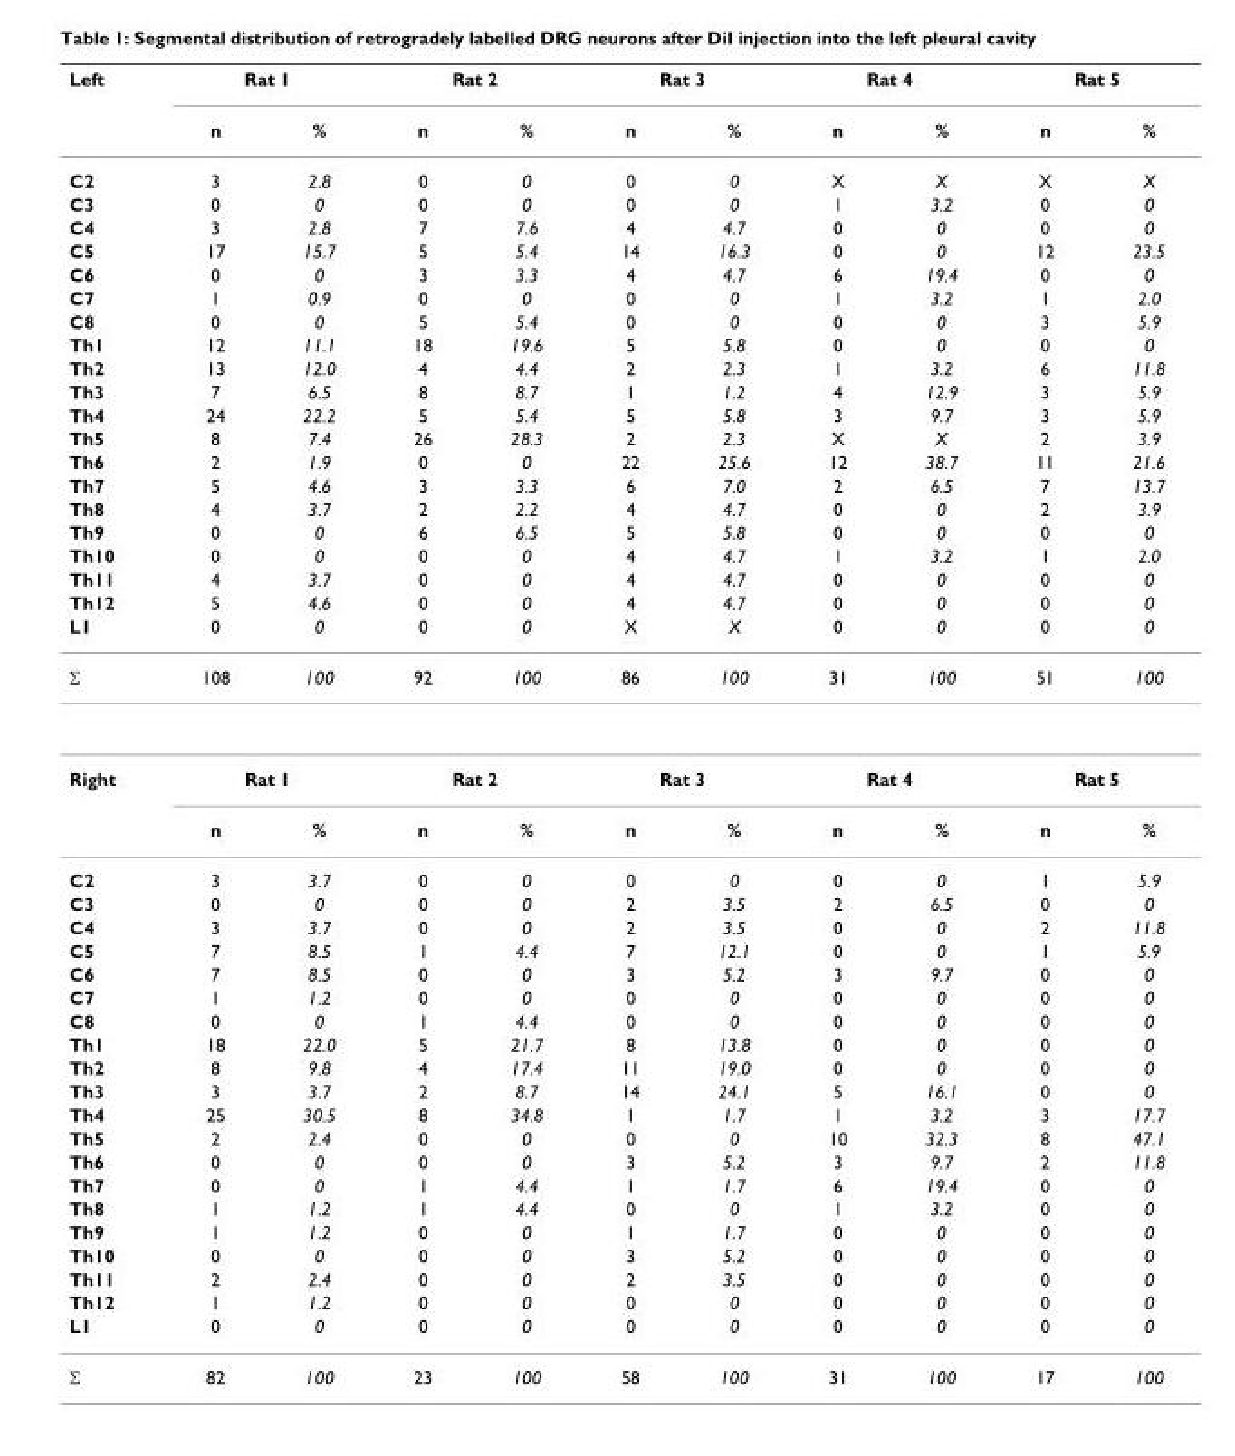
<table><thead><tr><td rowspan="2">Left</td><td colspan="2">Rat 1</td><td colspan="2">Rat 2</td><td colspan="2">Rat 3</td><td colspan="2">Rat 4</td><td colspan="2">Rat 5</td></tr><tr><td>n</td><td>%</td><td>n</td><td>%</td><td>n</td><td>%</td><td>n</td><td>%</td><td>n</td><td>%</td></tr></thead><tbody><tr><td>C2</td><td>3</td><td>2.8</td><td>0</td><td>0</td><td>0</td><td>0</td><td>X</td><td>X</td><td>X</td><td>X</td></tr><tr><td>C3</td><td>0</td><td>0</td><td>0</td><td>0</td><td>0</td><td>0</td><td>1</td><td>3.2</td><td>0</td><td>0</td></tr><tr><td>C4</td><td>3</td><td>2.8</td><td>7</td><td>7.6</td><td>4</td><td>4.7</td><td>0</td><td>0</td><td>0</td><td>0</td></tr><tr><td>C5</td><td>17</td><td>15.7</td><td>5</td><td>5.4</td><td>14</td><td>16.3</td><td>0</td><td>0</td><td>12</td><td>23.5</td></tr><tr><td>C6</td><td>0</td><td>0</td><td>3</td><td>3.3</td><td>4</td><td>4.7</td><td>6</td><td>19.4</td><td>0</td><td>0</td></tr><tr><td>C7</td><td>1</td><td>0.9</td><td>0</td><td>0</td><td>0</td><td>0</td><td>1</td><td>3.2</td><td>1</td><td>2.0</td></tr><tr><td>C8</td><td>0</td><td>0</td><td>5</td><td>5.4</td><td>0</td><td>0</td><td>0</td><td>0</td><td>3</td><td>5.9</td></tr><tr><td>Th1</td><td>12</td><td>11.1</td><td>18</td><td>19.6</td><td>5</td><td>5.8</td><td>0</td><td>0</td><td>0</td><td>0</td></tr><tr><td>Th2</td><td>13</td><td>12.0</td><td>4</td><td>4.4</td><td>2</td><td>2.3</td><td>1</td><td>3.2</td><td>6</td><td>11.8</td></tr><tr><td>Th3</td><td>7</td><td>6.5</td><td>8</td><td>8.7</td><td>1</td><td>1.2</td><td>4</td><td>12.9</td><td>3</td><td>5.9</td></tr><tr><td>Th4</td><td>24</td><td>22.2</td><td>5</td><td>5.4</td><td>5</td><td>5.8</td><td>3</td><td>9.7</td><td>3</td><td>5.9</td></tr><tr><td>Th5</td><td>8</td><td>7.4</td><td>26</td><td>28.3</td><td>2</td><td>2.3</td><td>X</td><td>X</td><td>2</td><td>3.9</td></tr><tr><td>Th6</td><td>2</td><td>1.9</td><td>0</td><td>0</td><td>22</td><td>25.6</td><td>12</td><td>38.7</td><td>11</td><td>21.6</td></tr><tr><td>Th7</td><td>5</td><td>4.6</td><td>3</td><td>3.3</td><td>6</td><td>7.0</td><td>2</td><td>6.5</td><td>7</td><td>13.7</td></tr><tr><td>Th8</td><td>4</td><td>3.7</td><td>2</td><td>2.2</td><td>4</td><td>4.7</td><td>0</td><td>0</td><td>2</td><td>3.9</td></tr><tr><td>Th9</td><td>0</td><td>0</td><td>6</td><td>6.5</td><td>5</td><td>5.8</td><td>0</td><td>0</td><td>0</td><td>0</td></tr><tr><td>Th10</td><td>0</td><td>0</td><td>0</td><td>0</td><td>4</td><td>4.7</td><td>1</td><td>3.2</td><td>1</td><td>2.0</td></tr><tr><td>Th11</td><td>4</td><td>3.7</td><td>0</td><td>0</td><td>4</td><td>4.7</td><td>0</td><td>0</td><td>0</td><td>0</td></tr><tr><td>Th12</td><td>5</td><td>4.6</td><td>0</td><td>0</td><td>4</td><td>4.7</td><td>0</td><td>0</td><td>0</td><td>0</td></tr><tr><td>L1</td><td>0</td><td>0</td><td>0</td><td>0</td><td>X</td><td>X</td><td>0</td><td>0</td><td>0</td><td>0</td></tr><tr><td>Σ</td><td>108</td><td>100</td><td>92</td><td>100</td><td>86</td><td>100</td><td>31</td><td>100</td><td>51</td><td>100</td></tr><tr><td rowspan="2">Right</td><td colspan="2">Rat 1</td><td colspan="2">Rat 2</td><td colspan="2">Rat 3</td><td colspan="2">Rat 4</td><td colspan="2">Rat 5</td></tr><tr><td>n</td><td>%</td><td>n</td><td>%</td><td>n</td><td>%</td><td>n</td><td>%</td><td>n</td><td>%</td></tr><tr><td>C2</td><td>3</td><td>3.7</td><td>0</td><td>0</td><td>0</td><td>0</td><td>0</td><td>0</td><td>1</td><td>5.9</td></tr><tr><td>C3</td><td>0</td><td>0</td><td>0</td><td>0</td><td>2</td><td>3.5</td><td>2</td><td>6.5</td><td>0</td><td>0</td></tr><tr><td>C4</td><td>3</td><td>3.7</td><td>0</td><td>0</td><td>2</td><td>3.5</td><td>0</td><td>0</td><td>2</td><td>11.8</td></tr><tr><td>C5</td><td>7</td><td>8.5</td><td>1</td><td>4.4</td><td>7</td><td>12.1</td><td>0</td><td>0</td><td>1</td><td>5.9</td></tr><tr><td>C6</td><td>7</td><td>8.5</td><td>0</td><td>0</td><td>3</td><td>5.2</td><td>3</td><td>9.7</td><td>0</td><td>0</td></tr><tr><td>C7</td><td>1</td><td>1.2</td><td>0</td><td>0</td><td>0</td><td>0</td><td>0</td><td>0</td><td>0</td><td>0</td></tr><tr><td>C8</td><td>0</td><td>0</td><td>1</td><td>4.4</td><td>0</td><td>0</td><td>0</td><td>0</td><td>0</td><td>0</td></tr><tr><td>Th1</td><td>18</td><td>22.0</td><td>5</td><td>21.7</td><td>8</td><td>13.8</td><td>0</td><td>0</td><td>0</td><td>0</td></tr><tr><td>Th2</td><td>8</td><td>9.8</td><td>4</td><td>17.4</td><td>11</td><td>19.0</td><td>0</td><td>0</td><td>0</td><td>0</td></tr><tr><td>Th3</td><td>3</td><td>3.7</td><td>2</td><td>8.7</td><td>14</td><td>24.1</td><td>5</td><td>16.1</td><td>0</td><td>0</td></tr><tr><td>Th4</td><td>25</td><td>30.5</td><td>8</td><td>34.8</td><td>1</td><td>1.7</td><td>1</td><td>3.2</td><td>3</td><td>17.7</td></tr><tr><td>Th5</td><td>2</td><td>2.4</td><td>0</td><td>0</td><td>0</td><td>0</td><td>10</td><td>32.3</td><td>8</td><td>47.1</td></tr><tr><td>Th6</td><td>0</td><td>0</td><td>0</td><td>0</td><td>3</td><td>5.2</td><td>3</td><td>9.7</td><td>2</td><td>11.8</td></tr><tr><td>Th7</td><td>0</td><td>0</td><td>1</td><td>4.4</td><td>1</td><td>1.7</td><td>6</td><td>19.4</td><td>0</td><td>0</td></tr><tr><td>Th8</td><td>1</td><td>1.2</td><td>1</td><td>4.4</td><td>0</td><td>0</td><td>1</td><td>3.2</td><td>0</td><td>0</td></tr><tr><td>Th9</td><td>1</td><td>1.2</td><td>0</td><td>0</td><td>1</td><td>1.7</td><td>0</td><td>0</td><td>0</td><td>0</td></tr><tr><td>Th10</td><td>0</td><td>0</td><td>0</td><td>0</td><td>3</td><td>5.2</td><td>0</td><td>0</td><td>0</td><td>0</td></tr><tr><td>Th11</td><td>2</td><td>2.4</td><td>0</td><td>0</td><td>2</td><td>3.5</td><td>0</td><td>0</td><td>0</td><td>0</td></tr><tr><td>Th12</td><td>1</td><td>1.2</td><td>0</td><td>0</td><td>0</td><td>0</td><td>0</td><td>0</td><td>0</td><td>0</td></tr><tr><td>L1</td><td>0</td><td>0</td><td>0</td><td>0</td><td>0</td><td>0</td><td>0</td><td>0</td><td>0</td><td>0</td></tr><tr><td>Σ</td><td>82</td><td>100</td><td>23</td><td>100</td><td>58</td><td>100</td><td>31</td><td>100</td><td>17</td><td>100</td></tr></tbody></table>